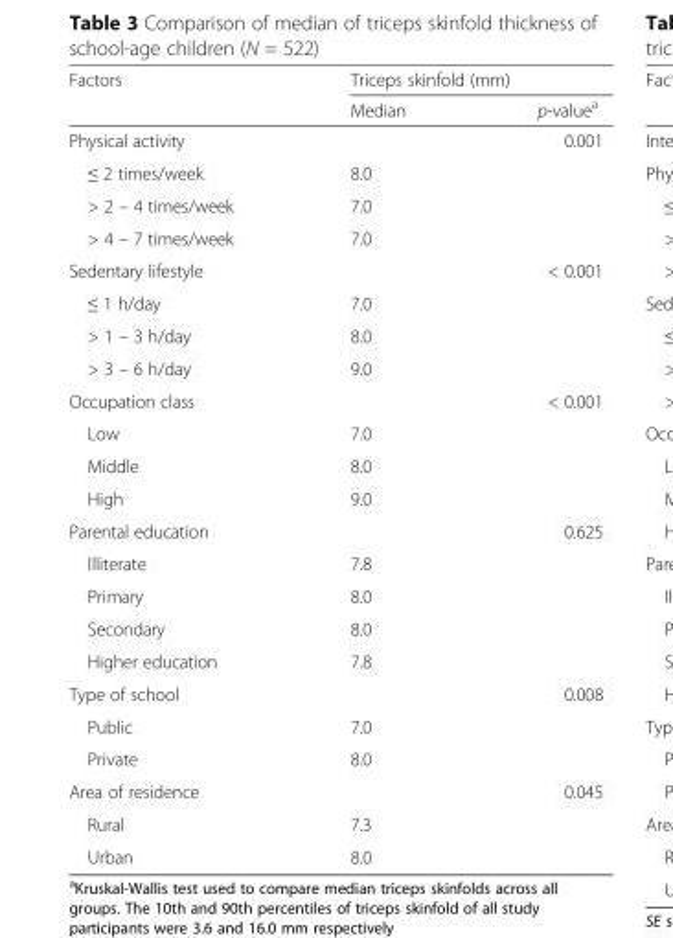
<table><thead><tr><td rowspan="2">Factors</td><td colspan="2">Triceps skinfold (mm)</td></tr><tr><td>Median</td><td>p-value<sup>a</sup></td></tr></thead><tbody><tr><td>Physical activity</td><td></td><td>0.001</td></tr><tr><td>≤ 2 times/week</td><td>8.0</td><td></td></tr><tr><td>&gt; 2 – 4 times/week</td><td>7.0</td><td></td></tr><tr><td>&gt; 4 – 7 times/week</td><td>7.0</td><td></td></tr><tr><td>Sedentary lifestyle</td><td></td><td>&lt; 0.001</td></tr><tr><td>≤ 1 h/day</td><td>7.0</td><td></td></tr><tr><td>&gt; 1 – 3 h/day</td><td>8.0</td><td></td></tr><tr><td>&gt; 3 – 6 h/day</td><td>9.0</td><td></td></tr><tr><td>Occupation class</td><td></td><td>&lt; 0.001</td></tr><tr><td>Low</td><td>7.0</td><td></td></tr><tr><td>Middle</td><td>8.0</td><td></td></tr><tr><td>High</td><td>9.0</td><td></td></tr><tr><td>Parental education</td><td></td><td>0.625</td></tr><tr><td>Illiterate</td><td>7.8</td><td></td></tr><tr><td>Primary</td><td>8.0</td><td></td></tr><tr><td>Secondary</td><td>8.0</td><td></td></tr><tr><td>Higher education</td><td>7.8</td><td></td></tr><tr><td>Type of school</td><td></td><td>0.008</td></tr><tr><td>Public</td><td>7.0</td><td></td></tr><tr><td>Private</td><td>8.0</td><td></td></tr><tr><td>Area of residence</td><td></td><td>0.045</td></tr><tr><td>Rural</td><td>7.3</td><td></td></tr><tr><td>Urban</td><td>8.0</td><td></td></tr></tbody></table>